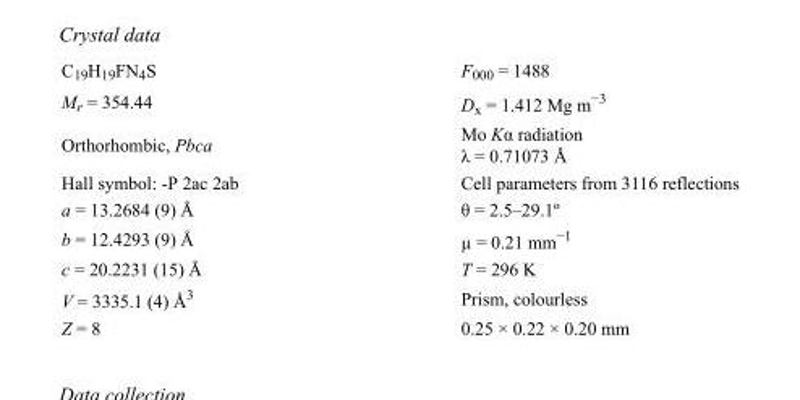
<table><tbody><tr><td>C<sub>19</sub>H<sub>19</sub>FN<sub>4</sub>S</td><td>F000 = 1488</td></tr><tr><td>M<sub>r</sub> = 354.44</td><td>D<sub>x</sub> = 1.412 Mg m<sup>−3</sup></td></tr><tr><td>Orthorhombic, Pbca</td><td>Mo Kα radiation λ = 0.71073 Å</td></tr><tr><td>Hall symbol: -P 2ac 2ab</td><td>Cell parameters from 3116 reflections</td></tr><tr><td>a = 13.2684 (9) Å</td><td>θ = 2.5–29.1º</td></tr><tr><td>b = 12.4293 (9) Å</td><td>µ = 0.21 mm<sup>−1</sup></td></tr><tr><td>c = 20.2231 (15) Å</td><td>T = 296 K</td></tr><tr><td>V = 3335.1 (4) Å<sup>3</sup></td><td>Prism, colourless</td></tr><tr><td>Z = 8</td><td>0.25 × 0.22 × 0.20 mm</td></tr></tbody></table>